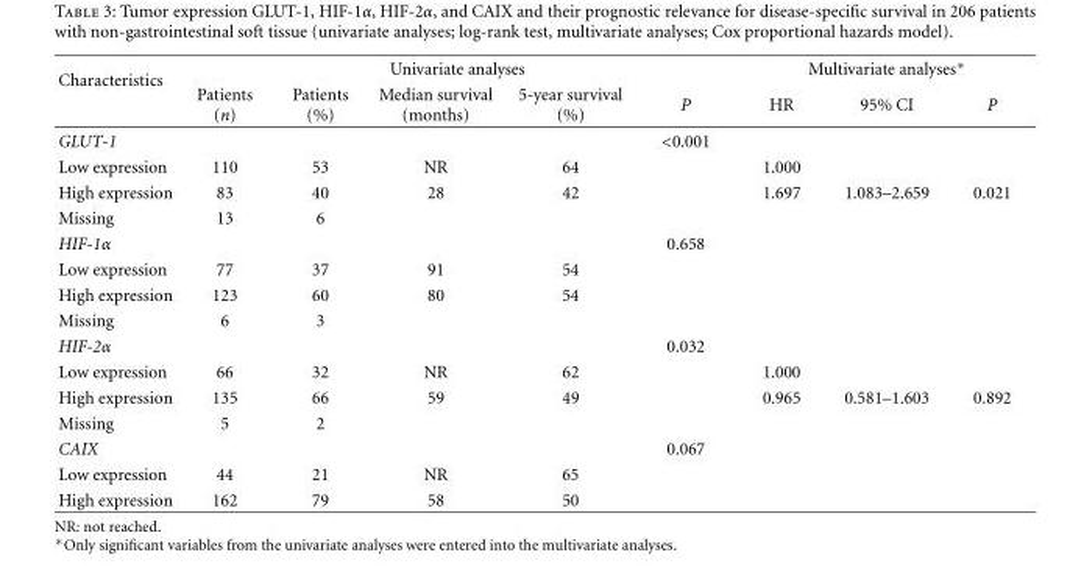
<table><thead><tr><td rowspan="2">Characteristics</td><td colspan="5">Univariate analyses</td><td colspan="3">Multivariate analyses∗</td></tr><tr><td>Patients (n)</td><td>Patients (%)</td><td>Median survival (months)</td><td>5-year survival (%)</td><td>P</td><td>HR</td><td>95% CI</td><td>P</td></tr></thead><tbody><tr><td>GLUT-1</td><td></td><td></td><td></td><td></td><td>&lt;0.001</td><td></td><td></td><td></td></tr><tr><td>Low expression</td><td>110</td><td>53</td><td>NR</td><td>64</td><td></td><td>1.000</td><td></td><td></td></tr><tr><td>High expression</td><td>83</td><td>40</td><td>28</td><td>42</td><td></td><td>1.697</td><td>1.083–2.659</td><td>0.021</td></tr><tr><td>Missing</td><td>13</td><td>6</td><td></td><td></td><td></td><td></td><td></td><td></td></tr><tr><td>HIF-1α</td><td></td><td></td><td></td><td></td><td>0.658</td><td></td><td></td><td></td></tr><tr><td>Low expression</td><td>77</td><td>37</td><td>91</td><td>54</td><td></td><td></td><td></td><td></td></tr><tr><td>High expression</td><td>123</td><td>60</td><td>80</td><td>54</td><td></td><td></td><td></td><td></td></tr><tr><td>Missing</td><td>6</td><td>3</td><td></td><td></td><td></td><td></td><td></td><td></td></tr><tr><td>HIF-2α</td><td></td><td></td><td></td><td></td><td>0.032</td><td></td><td></td><td></td></tr><tr><td>Low expression</td><td>66</td><td>32</td><td>NR</td><td>62</td><td></td><td>1.000</td><td></td><td></td></tr><tr><td>High expression</td><td>135</td><td>66</td><td>59</td><td>49</td><td></td><td>0.965</td><td>0.581–1.603</td><td>0.892</td></tr><tr><td>Missing</td><td>5</td><td>2</td><td></td><td></td><td></td><td></td><td></td><td></td></tr><tr><td>CAIX</td><td></td><td></td><td></td><td></td><td>0.067</td><td></td><td></td><td></td></tr><tr><td>Low expression</td><td>44</td><td>21</td><td>NR</td><td>65</td><td></td><td></td><td></td><td></td></tr><tr><td>High expression</td><td>162</td><td>79</td><td>58</td><td>50</td><td></td><td></td><td></td><td></td></tr></tbody></table>